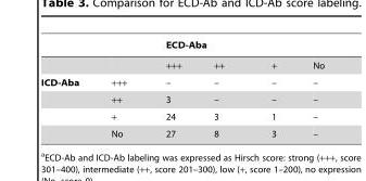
<table><thead><tr><td rowspan="2"></td><td rowspan="2"></td><td colspan="4">ECD-Aba</td></tr><tr><td>+++</td><td>++</td><td>+</td><td>No</td></tr></thead><tbody><tr><td rowspan="4">ICD-Aba</td><td>+++</td><td>–</td><td>–</td><td>–</td><td>–</td></tr><tr><td>++</td><td>3</td><td>–</td><td>–</td><td>–</td></tr><tr><td>+</td><td>24</td><td>3</td><td>1</td><td>–</td></tr><tr><td>No</td><td>27</td><td>8</td><td>3</td><td>–</td></tr></tbody></table>